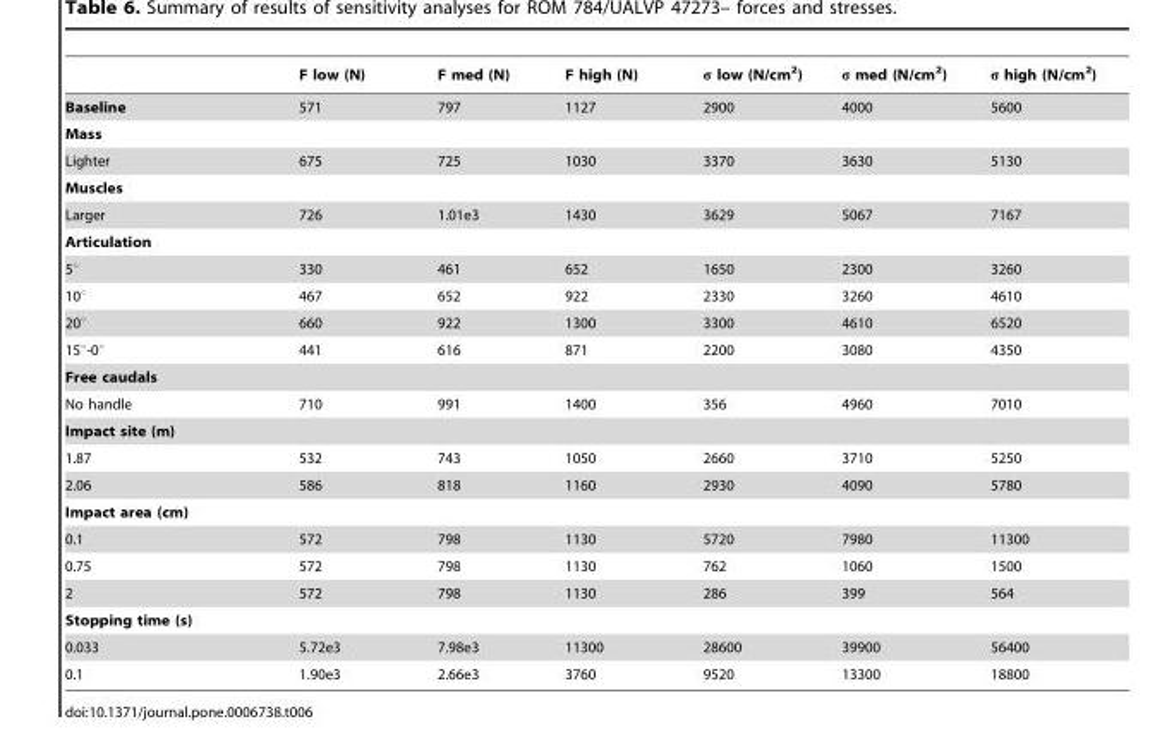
<table><thead><tr><td></td><td>F low (N)</td><td>F med (N)</td><td>F high (N)</td><td>σ low (N/cm<sup>2</sup>)</td><td>σ med (N/cm<sup>2</sup>)</td><td>σ high (N/cm<sup>2</sup>)</td></tr></thead><tbody><tr><td>Baseline</td><td>571</td><td>797</td><td>1127</td><td>2900</td><td>4000</td><td>5600</td></tr><tr><td colspan="7">Mass</td></tr><tr><td>Lighter</td><td>675</td><td>725</td><td>1030</td><td>3370</td><td>3630</td><td>5130</td></tr><tr><td colspan="7">Muscles</td></tr><tr><td>Larger</td><td>726</td><td>1.01e3</td><td>1430</td><td>3629</td><td>5067</td><td>7167</td></tr><tr><td colspan="7">Articulation</td></tr><tr><td>5°</td><td>330</td><td>461</td><td>652</td><td>1650</td><td>2300</td><td>3260</td></tr><tr><td>10°</td><td>467</td><td>652</td><td>922</td><td>2330</td><td>3260</td><td>4610</td></tr><tr><td>20°</td><td>660</td><td>922</td><td>1300</td><td>3300</td><td>4610</td><td>6520</td></tr><tr><td>15°-0°</td><td>441</td><td>616</td><td>871</td><td>2200</td><td>3080</td><td>4350</td></tr><tr><td colspan="7">Free caudals</td></tr><tr><td>No handle</td><td>710</td><td>991</td><td>1400</td><td>356</td><td>4960</td><td>7010</td></tr><tr><td colspan="7">Impact site (m)</td></tr><tr><td>1.87</td><td>532</td><td>743</td><td>1050</td><td>2660</td><td>3710</td><td>5250</td></tr><tr><td>2.06</td><td>586</td><td>818</td><td>1160</td><td>2930</td><td>4090</td><td>5780</td></tr><tr><td colspan="7">Impact area (cm)</td></tr><tr><td>0.1</td><td>572</td><td>798</td><td>1130</td><td>5720</td><td>7980</td><td>11300</td></tr><tr><td>0.75</td><td>572</td><td>798</td><td>1130</td><td>762</td><td>1060</td><td>1500</td></tr><tr><td>2</td><td>572</td><td>798</td><td>1130</td><td>286</td><td>399</td><td>564</td></tr><tr><td colspan="7">Stopping time (s)</td></tr><tr><td>0.033</td><td>5.72e3</td><td>7.98e3</td><td>11300</td><td>28600</td><td>39900</td><td>56400</td></tr><tr><td>0.1</td><td>1.90e3</td><td>2.66e3</td><td>3760</td><td>9520</td><td>13300</td><td>18800</td></tr></tbody></table>